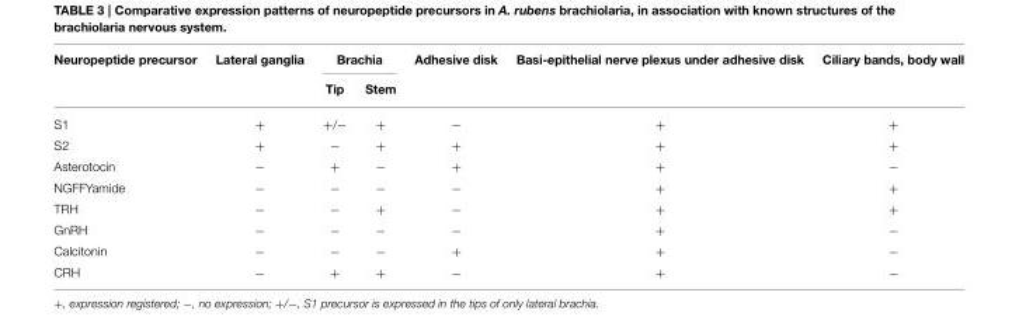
<table><thead><tr><td rowspan="2">Neuropeptide precursor</td><td rowspan="2">Lateral ganglia</td><td colspan="2">Brachia</td><td rowspan="2">Adhesive disk</td><td rowspan="2">Basi-epithelial nerve plexus under adhesive disk</td><td rowspan="2">Ciliary bands, body wall</td></tr><tr><td>Tip</td><td>Stem</td></tr></thead><tbody><tr><td>S1</td><td>+</td><td>+/−</td><td>+</td><td>−</td><td>+</td><td>+</td></tr><tr><td>S2</td><td>+</td><td>−</td><td>+</td><td>+</td><td>+</td><td>+</td></tr><tr><td>Asterotocin</td><td>−</td><td>+</td><td>−</td><td>+</td><td>+</td><td>−</td></tr><tr><td>NGFFYamide</td><td>−</td><td>−</td><td>−</td><td>−</td><td>+</td><td>+</td></tr><tr><td>TRH</td><td>−</td><td>−</td><td>+</td><td>−</td><td>+</td><td>+</td></tr><tr><td>GnRH</td><td>−</td><td>−</td><td>−</td><td>−</td><td>+</td><td>−</td></tr><tr><td>Calcitonin</td><td>−</td><td>−</td><td>−</td><td>+</td><td>+</td><td>−</td></tr><tr><td>CRH</td><td>−</td><td>+</td><td>+</td><td>−</td><td>+</td><td>−</td></tr></tbody></table>